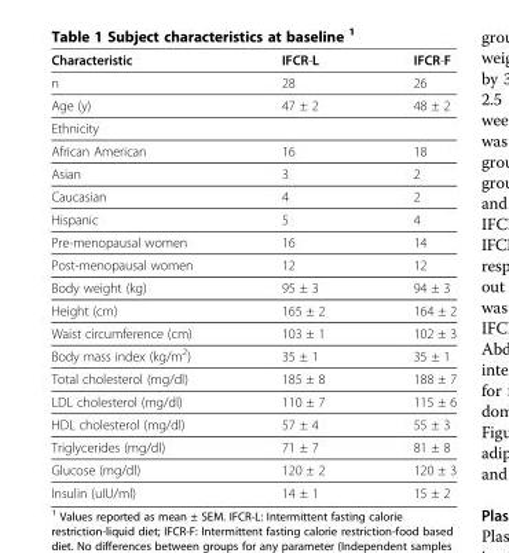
<table><thead><tr><td>Characteristic</td><td>IFCR-L</td><td>IFCR-F</td></tr></thead><tbody><tr><td>n</td><td>28</td><td>26</td></tr><tr><td>Age (y)</td><td>47 ± 2</td><td>48 ± 2</td></tr><tr><td colspan="3">Ethnicity</td></tr><tr><td>African American</td><td>16</td><td>18</td></tr><tr><td>Asian</td><td>3</td><td>2</td></tr><tr><td>Caucasian</td><td>4</td><td>2</td></tr><tr><td>Hispanic</td><td>5</td><td>4</td></tr><tr><td>Pre-menopausal women</td><td>16</td><td>14</td></tr><tr><td>Post-menopausal women</td><td>12</td><td>12</td></tr><tr><td>Body weight (kg)</td><td>95 ± 3</td><td>94 ± 3</td></tr><tr><td>Height (cm)</td><td>165 ± 2</td><td>164 ± 2</td></tr><tr><td>Waist circumference (cm)</td><td>103 ± 1</td><td>102 ± 3</td></tr><tr><td>Body mass index (kg/m<sup>2</sup>)</td><td>35 ± 1</td><td>35 ± 1</td></tr><tr><td>Total cholesterol (mg/dl)</td><td>185 ± 8</td><td>188 ± 7</td></tr><tr><td>LDL cholesterol (mg/dl)</td><td>110 ± 7</td><td>115 ± 6</td></tr><tr><td>HDL cholesterol (mg/dl)</td><td>57 ± 4</td><td>55 ± 3</td></tr><tr><td>Triglycerides (mg/dl)</td><td>71 ± 7</td><td>81 ± 8</td></tr><tr><td>Glucose (mg/dl)</td><td>120 ± 2</td><td>120 ± 3</td></tr><tr><td>Insulin (uIU/ml)</td><td>14 ± 1</td><td>15 ± 2</td></tr></tbody></table>